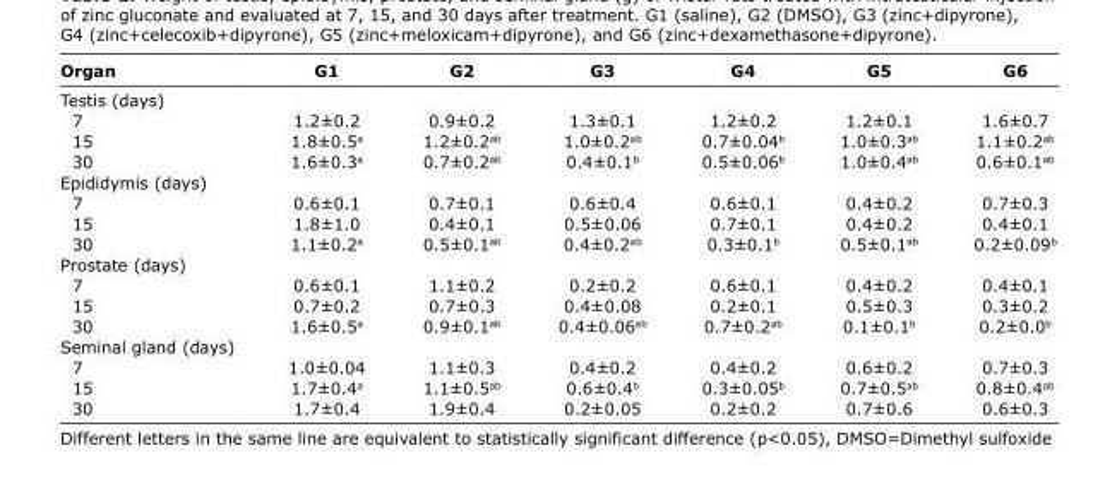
<table><thead><tr><td>Organ</td><td>G1</td><td>G2</td><td>G3</td><td>G4</td><td>G5</td><td>G6</td></tr></thead><tbody><tr><td colspan="7">Testis (days)</td></tr><tr><td>7</td><td>1.2±0.2</td><td>0.9±0.2</td><td>1.3±0.1</td><td>1.2±0.2</td><td>1.2±0.1</td><td>1.6±0.7</td></tr><tr><td>15</td><td>1.8±0.5<sup>a</sup></td><td>1.2±0.2<sup>ab</sup></td><td>1.0±0.2<sup>ab</sup></td><td>0.7±0.04<sup>b</sup></td><td>1.0±0.3<sup>ab</sup></td><td>1.1±0.2<sup>ab</sup></td></tr><tr><td>30</td><td>1.6±0.3<sup>a</sup></td><td>0.7±0.2<sup>ab</sup></td><td>0.4±0.1<sup>b</sup></td><td>0.5±0.06<sup>b</sup></td><td>1.0±0.4<sup>ab</sup></td><td>0.6±0.1<sup>ab</sup></td></tr><tr><td colspan="7">Epididymis (days)</td></tr><tr><td>7</td><td>0.6±0.1</td><td>0.7±0.1</td><td>0.6±0.4</td><td>0.6±0.1</td><td>0.4±0.2</td><td>0.7±0.3</td></tr><tr><td>15</td><td>1.8±1.0</td><td>0.4±0.1</td><td>0.5±0.06</td><td>0.7±0.1</td><td>0.4±0.2</td><td>0.4±0.1</td></tr><tr><td>30</td><td>1.1±0.2<sup>a</sup></td><td>0.5±0.1<sup>ab</sup></td><td>0.4±0.2<sup>ab</sup></td><td>0.3±0.1<sup>b</sup></td><td>0.5±0.1<sup>ab</sup></td><td>0.2±0.09<sup>b</sup></td></tr><tr><td colspan="7">Prostate (days)</td></tr><tr><td>7</td><td>0.6±0.1</td><td>1.1±0.2</td><td>0.2±0.2</td><td>0.6±0.1</td><td>0.4±0.2</td><td>0.4±0.1</td></tr><tr><td>15</td><td>0.7±0.2</td><td>0.7±0.3</td><td>0.4±0.08</td><td>0.2±0.1</td><td>0.5±0.3</td><td>0.3±0.2</td></tr><tr><td>30</td><td>1.6±0.5<sup>a</sup></td><td>0.9±0.1<sup>ab</sup></td><td>0.4±0.06<sup>ab</sup></td><td>0.7±0.2<sup>ab</sup></td><td>0.1±0.1<sup>b</sup></td><td>0.2±0.0<sup>b</sup></td></tr><tr><td colspan="7">Seminal gland (days)</td></tr><tr><td>7</td><td>1.0±0.04</td><td>1.1±0.3</td><td>0.4±0.2</td><td>0.4±0.2</td><td>0.6±0.2</td><td>0.7±0.3</td></tr><tr><td>15</td><td>1.7±0.4<sup>a</sup></td><td>1.1±0.5<sup>ab</sup></td><td>0.6±0.4<sup>b</sup></td><td>0.3±0.05<sup>b</sup></td><td>0.7±0.5<sup>ab</sup></td><td>0.8±0.4<sup>ab</sup></td></tr><tr><td>30</td><td>1.7±0.4</td><td>1.9±0.4</td><td>0.2±0.05</td><td>0.2±0.2</td><td>0.7±0.6</td><td>0.6±0.3</td></tr></tbody></table>